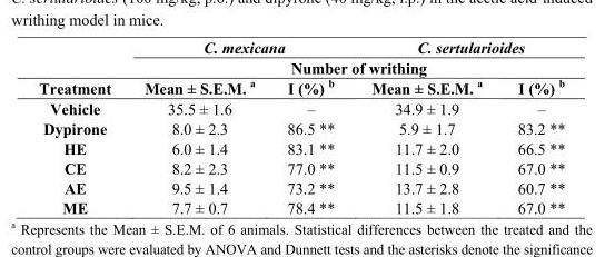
<table><thead><tr><td rowspan="3">Treatment</td><td colspan="2">C. mexicana</td><td colspan="2">C. sertularioides</td></tr><tr><td colspan="4">Number of writhing</td></tr><tr><td>Mean ± S.E.M. <sup>a</sup></td><td>I (%) <sup>b</sup></td><td>Mean ± S.E.M. <sup>a</sup></td><td>I (%) <sup>b</sup></td></tr></thead><tbody><tr><td>Vehicle</td><td>35.5 ± 1.6</td><td>–</td><td>34.9 ± 1.9</td><td>–</td></tr><tr><td>Dypirone</td><td>8.0 ± 2.3</td><td>86.5 **</td><td>5.9 ± 1.7</td><td>83.2 **</td></tr><tr><td>HE</td><td>6.0 ± 1.4</td><td>83.1 **</td><td>11.7 ± 2.0</td><td>66.5 **</td></tr><tr><td>CE</td><td>8.2 ± 2.3</td><td>77.0 **</td><td>11.5 ± 0.9</td><td>67.0 **</td></tr><tr><td>AE</td><td>9.5 ± 1.4</td><td>73.2 **</td><td>13.7 ± 2.8</td><td>60.7 **</td></tr><tr><td>ME</td><td>7.7 ± 0.7</td><td>78.4 **</td><td>11.5 ± 1.8</td><td>67.0 **</td></tr></tbody></table>